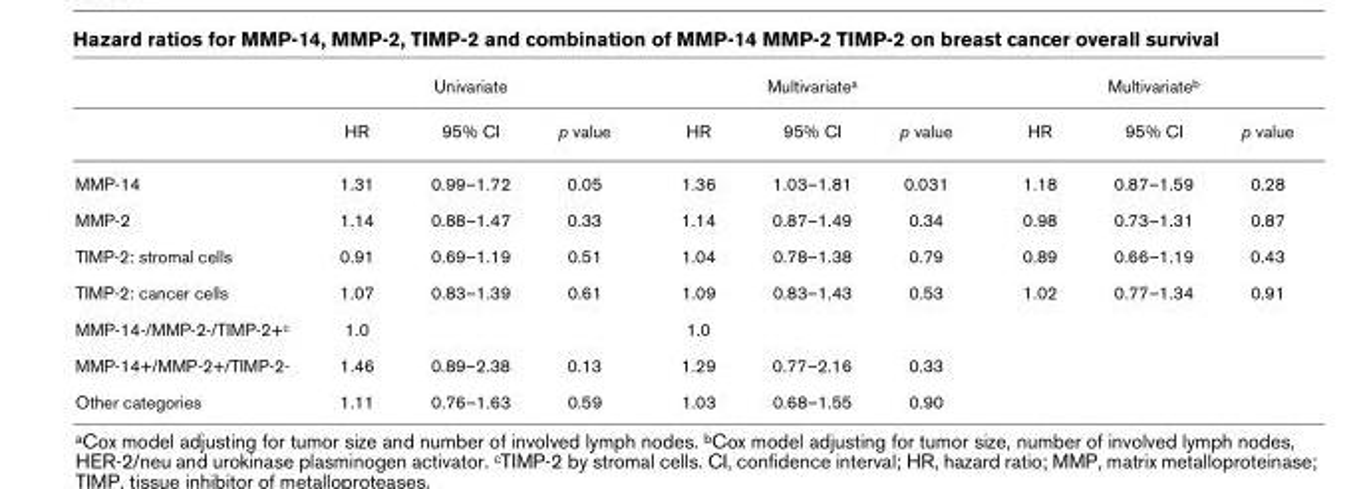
<table><thead><tr><td rowspan="2"></td><td colspan="3">Univariate</td><td colspan="3">Multivariatea</td><td colspan="3">Multivariateb</td></tr><tr><td>HR</td><td>95% CI</td><td>p value</td><td>HR</td><td>95% CI</td><td>p value</td><td>HR</td><td>95% CI</td><td>p value</td></tr></thead><tbody><tr><td>MMP-14</td><td>1.31</td><td>0.99–1.72</td><td>0.05</td><td>1.36</td><td>1.03–1.81</td><td>0.031</td><td>1.18</td><td>0.87–1.59</td><td>0.28</td></tr><tr><td>MMP-2</td><td>1.14</td><td>0.88–1.47</td><td>0.33</td><td>1.14</td><td>0.87–1.49</td><td>0.34</td><td>0.98</td><td>0.73–1.31</td><td>0.87</td></tr><tr><td>TIMP-2: stromal cells</td><td>0.91</td><td>0.69–1.19</td><td>0.51</td><td>1.04</td><td>0.78–1.38</td><td>0.79</td><td>0.89</td><td>0.66–1.19</td><td>0.43</td></tr><tr><td>TIMP-2: cancer cells</td><td>1.07</td><td>0.83–1.39</td><td>0.61</td><td>1.09</td><td>0.83–1.43</td><td>0.53</td><td>1.02</td><td>0.77–1.34</td><td>0.91</td></tr><tr><td>MMP-14-/MMP-2-/TIMP-2+c</td><td>1.0</td><td></td><td></td><td>1.0</td><td></td><td></td><td></td><td></td><td></td></tr><tr><td>MMP-14+/MMP-2+/TIMP-2-</td><td>1.46</td><td>0.89–2.38</td><td>0.13</td><td>1.29</td><td>0.77–2.16</td><td>0.33</td><td></td><td></td><td></td></tr><tr><td>Other categories</td><td>1.11</td><td>0.76–1.63</td><td>0.59</td><td>1.03</td><td>0.68–1.55</td><td>0.90</td><td></td><td></td><td></td></tr></tbody></table>